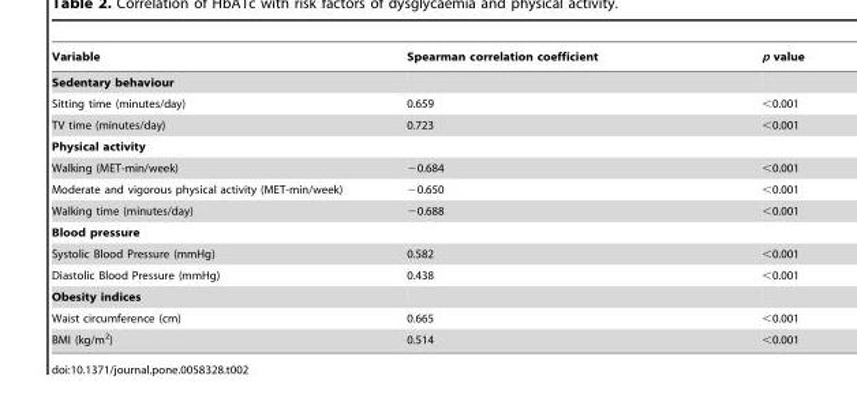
<table><thead><tr><td>Variable</td><td>Spearman correlation coefficient</td><td>p value</td></tr></thead><tbody><tr><td colspan="3">Sedentary behaviour</td></tr><tr><td>Sitting time (minutes/day)</td><td>0.659</td><td>&lt;0.001</td></tr><tr><td>TV time (minutes/day)</td><td>0.723</td><td>&lt;0.001</td></tr><tr><td colspan="3">Physical activity</td></tr><tr><td>Walking (MET-min/week)</td><td>−0.684</td><td>&lt;0.001</td></tr><tr><td>Moderate and vigorous physical activity (MET-min/week)</td><td>−0.650</td><td>&lt;0.001</td></tr><tr><td>Walking time (minutes/day)</td><td>−0.688</td><td>&lt;0.001</td></tr><tr><td colspan="3">Blood pressure</td></tr><tr><td>Systolic Blood Pressure (mmHg)</td><td>0.582</td><td>&lt;0.001</td></tr><tr><td>Diastolic Blood Pressure (mmHg)</td><td>0.438</td><td>&lt;0.001</td></tr><tr><td colspan="3">Obesity indices</td></tr><tr><td>Waist circumference (cm)</td><td>0.665</td><td>&lt;0.001</td></tr><tr><td>BMI (kg/m<sup>2</sup>)</td><td>0.514</td><td>&lt;0.001</td></tr></tbody></table>